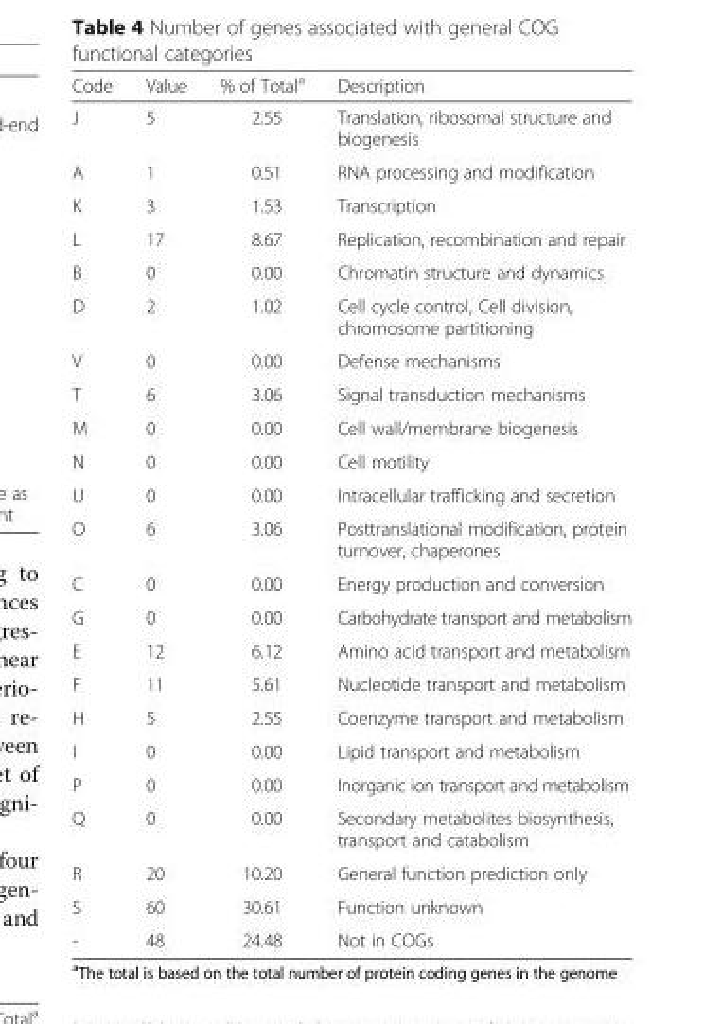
<table><thead><tr><td>Code</td><td>Value</td><td>% of Total<sup>a</sup></td><td>Description</td></tr></thead><tbody><tr><td>J</td><td>5</td><td>2.55</td><td>Translation, ribosomal structure and biogenesis</td></tr><tr><td>A</td><td>1</td><td>0.51</td><td>RNA processing and modification</td></tr><tr><td>K</td><td>3</td><td>1.53</td><td>Transcription</td></tr><tr><td>L</td><td>17</td><td>8.67</td><td>Replication, recombination and repair</td></tr><tr><td>B</td><td>0</td><td>0.00</td><td>Chromatin structure and dynamics</td></tr><tr><td>D</td><td>2</td><td>1.02</td><td>Cell cycle control, Cell division, chromosome partitioning</td></tr><tr><td>V</td><td>0</td><td>0.00</td><td>Defense mechanisms</td></tr><tr><td>T</td><td>6</td><td>3.06</td><td>Signal transduction mechanisms</td></tr><tr><td>M</td><td>0</td><td>0.00</td><td>Cell wall/membrane biogenesis</td></tr><tr><td>N</td><td>0</td><td>0.00</td><td>Cell motility</td></tr><tr><td>U</td><td>0</td><td>0.00</td><td>Intracellular trafficking and secretion</td></tr><tr><td>O</td><td>6</td><td>3.06</td><td>Posttranslational modification, protein turnover, chaperones</td></tr><tr><td>C</td><td>0</td><td>0.00</td><td>Energy production and conversion</td></tr><tr><td>G</td><td>0</td><td>0.00</td><td>Carbohydrate transport and metabolism</td></tr><tr><td>E</td><td>12</td><td>6.12</td><td>Amino acid transport and metabolism</td></tr><tr><td>F</td><td>11</td><td>5.61</td><td>Nucleotide transport and metabolism</td></tr><tr><td>H</td><td>5</td><td>2.55</td><td>Coenzyme transport and metabolism</td></tr><tr><td>I</td><td>0</td><td>0.00</td><td>Lipid transport and metabolism</td></tr><tr><td>P</td><td>0</td><td>0.00</td><td>Inorganic ion transport and metabolism</td></tr><tr><td>Q</td><td>0</td><td>0.00</td><td>Secondary metabolites biosynthesis, transport and catabolism</td></tr><tr><td>R</td><td>20</td><td>10.20</td><td>General function prediction only</td></tr><tr><td>S</td><td>60</td><td>30.61</td><td>Function unknown</td></tr><tr><td>-</td><td>48</td><td>24.48</td><td>Not in COGs</td></tr></tbody></table>